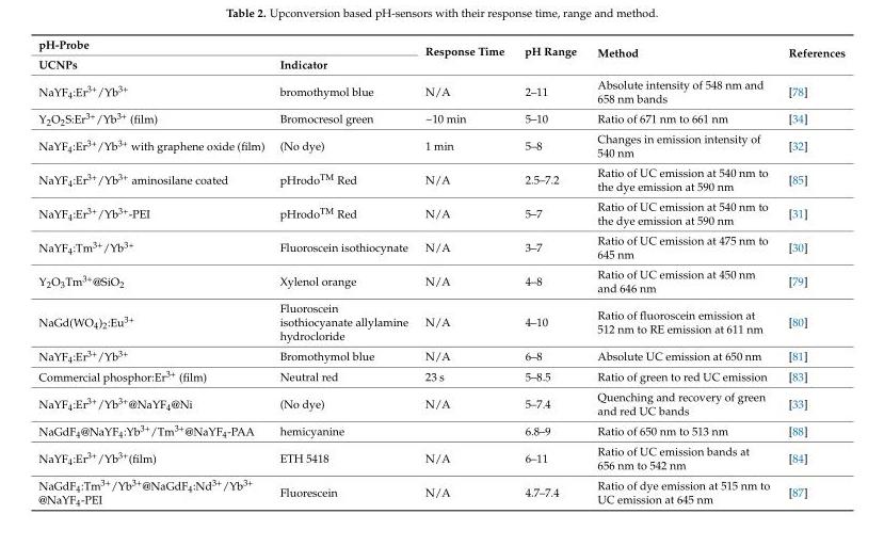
<table><thead><tr><td colspan="2">pH-Probe</td><td rowspan="2">Response Time</td><td rowspan="2">pH Range</td><td rowspan="2">Method</td><td rowspan="2">References</td></tr><tr><td>UCNPs</td><td>Indicator</td></tr></thead><tbody><tr><td>NaYF<sub>4</sub>:Er<sup>3+</sup>/Yb<sup>3+</sup></td><td>bromothymol blue</td><td>N/A</td><td>2–11</td><td>Absolute intensity of 548 nm and 658 nm bands</td><td>[78]</td></tr><tr><td>Y<sub>2</sub>O<sub>2</sub>S:Er<sup>3+</sup>/Yb<sup>3+</sup> (film)</td><td>Bromocresol green</td><td>~10 min</td><td>5–10</td><td>Ratio of 671 nm to 661 nm</td><td>[34]</td></tr><tr><td>NaYF<sub>4</sub>:Er<sup>3+</sup>/Yb<sup>3+</sup> with graphene oxide (film)</td><td>(No dye)</td><td>1 min</td><td>5–8</td><td>Changes in emission intensity of 540 nm</td><td>[32]</td></tr><tr><td>NaYF<sub>4</sub>:Er<sup>3+</sup>/Yb<sup>3+</sup> aminosilane coated</td><td>pHrodo<sup>TM</sup> Red</td><td>N/A</td><td>2.5–7.2</td><td>Ratio of UC emission at 540 nm to the dye emission at 590 nm</td><td>[85]</td></tr><tr><td>NaYF<sub>4</sub>:Er<sup>3+</sup>/Yb<sup>3+</sup>-PEI</td><td>pHrodo<sup>TM</sup> Red</td><td>N/A</td><td>5–7</td><td>Ratio of UC emission at 540 nm to the dye emission at 590 nm</td><td>[31]</td></tr><tr><td>NaYF<sub>4</sub>:Tm<sup>3+</sup>/Yb<sup>3+</sup></td><td>Fluoroscein isothiocynate</td><td>N/A</td><td>3–7</td><td>Ratio of UC emission at 475 nm to 645 nm</td><td>[30]</td></tr><tr><td>Y<sub>2</sub>O<sub>3</sub>Tm<sup>3+</sup>@SiO<sub>2</sub></td><td>Xylenol orange</td><td>N/A</td><td>4–8</td><td>Ratio of UC emission at 450 nm and 646 nm</td><td>[79]</td></tr><tr><td>NaGd(WO<sub>4</sub>)<sub>2</sub>:Eu<sup>3+</sup></td><td>Fluoroscein isothiocyanate allylamine hydrocloride</td><td>N/A</td><td>4–10</td><td>Ratio of fluoroscein emission at 512 nm to RE emission at 611 nm</td><td>[80]</td></tr><tr><td>NaYF<sub>4</sub>:Er<sup>3+</sup>/Yb<sup>3+</sup></td><td>Bromothymol blue</td><td>N/A</td><td>6–8</td><td>Absolute UC emission at 650 nm</td><td>[81]</td></tr><tr><td>Commercial phosphor:Er<sup>3+</sup> (film)</td><td>Neutral red</td><td>23 s</td><td>5–8.5</td><td>Ratio of green to red UC emission</td><td>[83]</td></tr><tr><td>NaYF<sub>4</sub>:Er<sup>3+</sup>/Yb<sup>3+</sup>@NaYF<sub>4</sub>@Ni</td><td>(No dye)</td><td>N/A</td><td>5–7.4</td><td>Quenching and recovery of green and red UC bands</td><td>[33]</td></tr><tr><td>NaGdF<sub>4</sub>@NaYF<sub>4</sub>:Yb<sup>3+</sup>/Tm<sup>3+</sup>@NaYF<sub>4</sub>-PAA</td><td>hemicyanine</td><td></td><td>6.8–9</td><td>Ratio of 650 nm to 513 nm</td><td>[88]</td></tr><tr><td>NaYF<sub>4</sub>:Er<sup>3+</sup>/Yb<sup>3+</sup>(film)</td><td>ETH 5418</td><td>N/A</td><td>6–11</td><td>Ratio of UC emission bands at 656 nm to 542 nm</td><td>[84]</td></tr><tr><td>NaGdF<sub>4</sub>:Tm<sup>3+</sup>/Yb<sup>3+</sup>@NaGdF<sub>4</sub>:Nd<sup>3+</sup>/Yb<sup>3+</sup> @NaYF<sub>4</sub>-PEI</td><td>Fluorescein</td><td>N/A</td><td>4.7–7.4</td><td>Ratio of dye emission at 515 nm to UC emission at 645 nm</td><td>[87]</td></tr></tbody></table>